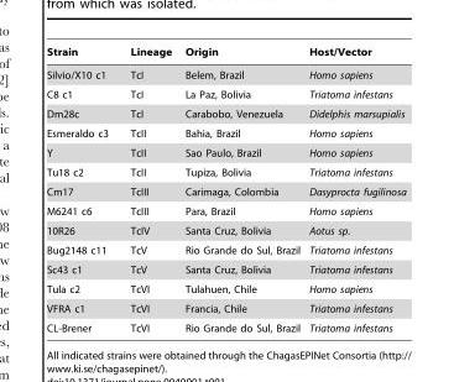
<table><thead><tr><td>Strain</td><td>Lineage</td><td>Origin</td><td>Host/Vector</td></tr></thead><tbody><tr><td>Silvio/X10 c1</td><td>TcI</td><td>Belem, Brazil</td><td>Homo sapiens</td></tr><tr><td>C8 c1</td><td>TcI</td><td>La Paz, Bolivia</td><td>Triatoma infestans</td></tr><tr><td>Dm28c</td><td>TcI</td><td>Carabobo, Venezuela</td><td>Didelphis marsupialis</td></tr><tr><td>Esmeraldo c3</td><td>TcII</td><td>Bahia, Brazil</td><td>Homo sapiens</td></tr><tr><td>Y</td><td>TcII</td><td>Sao Paulo, Brazil</td><td>Homo sapiens</td></tr><tr><td>Tu18 c2</td><td>TcII</td><td>Tupiza, Bolivia</td><td>Triatoma infestans</td></tr><tr><td>Cm17</td><td>TcIII</td><td>Carimaga, Colombia</td><td>Dasyprocta fugilinosa</td></tr><tr><td>M6241 c6</td><td>TcIII</td><td>Para, Brazil</td><td>Homo sapiens</td></tr><tr><td>10R26</td><td>TcIV</td><td>Santa Cruz, Bolivia</td><td>Aotus sp.</td></tr><tr><td>Bug2148 c11</td><td>TcV</td><td>Rio Grande do Sul, Brazil</td><td>Triatoma infestans</td></tr><tr><td>Sc43 c1</td><td>TcV</td><td>Santa Cruz, Bolivia</td><td>Triatoma infestans</td></tr><tr><td>Tula c2</td><td>TcVI</td><td>Tulahuen, Chile</td><td>Homo sapiens</td></tr><tr><td>VFRA c1</td><td>TcVI</td><td>Francia, Chile</td><td>Triatoma infestans</td></tr><tr><td>CL-Brener</td><td>TcVI</td><td>Rio Grande do Sul, Brazil</td><td>Triatoma infestans</td></tr></tbody></table>